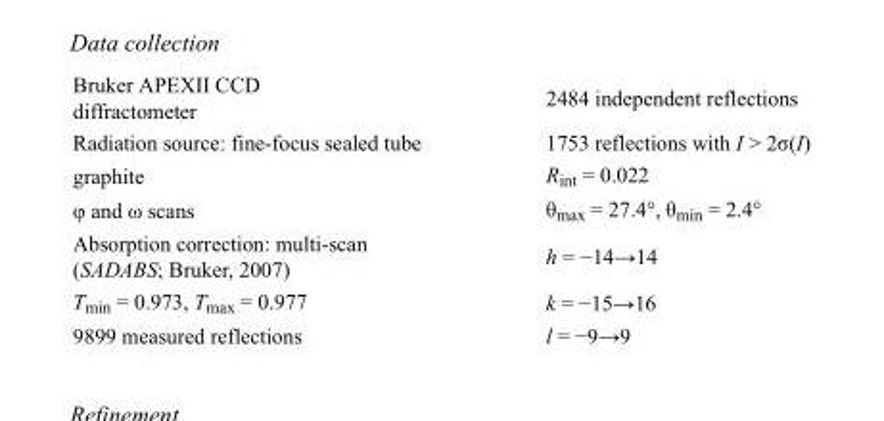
<table><tbody><tr><td>Bruker APEXII CCD diffractometer</td><td>2484 independent reflections</td></tr><tr><td>Radiation source: fine-focus sealed tube</td><td>1753 reflections with I &gt; 2σ(I)</td></tr><tr><td>graphite</td><td>R<sub>int</sub> = 0.022</td></tr><tr><td>φ and ω scans</td><td>θ<sub>max</sub> = 27.4°, θ<sub>min</sub> = 2.4°</td></tr><tr><td>Absorption correction: multi-scan (SADABS; Bruker, 2007)</td><td>h = −14→14</td></tr><tr><td>T<sub>min</sub> = 0.973, T<sub>max</sub> = 0.977</td><td>k = −15→16</td></tr><tr><td>9899 measured reflections</td><td>l = −9→9</td></tr></tbody></table>